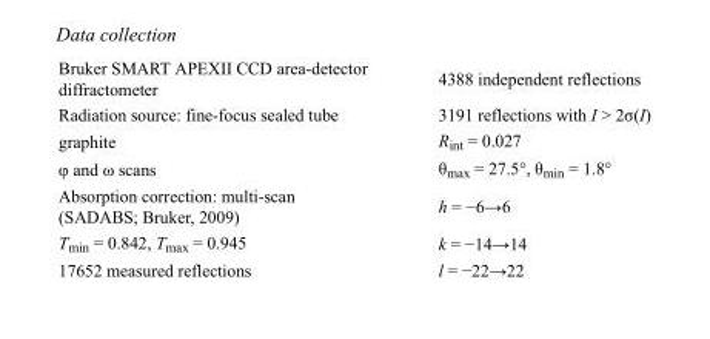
<table><tbody><tr><td>Bruker SMART APEXII CCD area-detector diffractometer</td><td>4388 independent reflections</td></tr><tr><td>Radiation source: fine-focus sealed tube</td><td>3191 reflections with I &gt; 2σ(I)</td></tr><tr><td>graphite</td><td>R<sub>int</sub> = 0.027</td></tr><tr><td>φ and ω scans</td><td>θ<sub>max</sub> = 27.5°, θ<sub>min</sub> = 1.8°</td></tr><tr><td>Absorption correction: multi-scan (SADABS; Bruker, 2009)</td><td>h = −6→6</td></tr><tr><td>T<sub>min</sub> = 0.842, T<sub>max</sub> = 0.945</td><td>k = −14→14</td></tr><tr><td>17652 measured reflections</td><td>l = −22→22</td></tr></tbody></table>